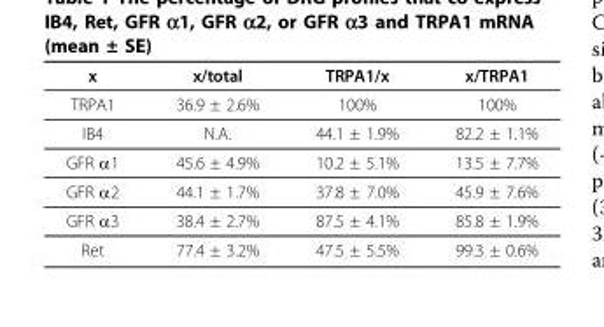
<table><thead><tr><td>x</td><td>x/total</td><td>TRPA1/x</td><td>x/TRPA1</td></tr></thead><tbody><tr><td>TRPA1</td><td>36.9 ± 2.6%</td><td>100%</td><td>100%</td></tr><tr><td>IB4</td><td>N.A.</td><td>44.1 ± 1.9%</td><td>82.2 ± 1.1%</td></tr><tr><td>GFR α1</td><td>45.6 ± 4.9%</td><td>10.2 ± 5.1%</td><td>13.5 ± 7.7%</td></tr><tr><td>GFR α2</td><td>44.1 ± 1.7%</td><td>37.8 ± 7.0%</td><td>45.9 ± 7.6%</td></tr><tr><td>GFR α3</td><td>38.4 ± 2.7%</td><td>87.5 ± 4.1%</td><td>85.8 ± 1.9%</td></tr><tr><td>Ret</td><td>77.4 ± 3.2%</td><td>47.5 ± 5.5%</td><td>99.3 ± 0.6%</td></tr></tbody></table>